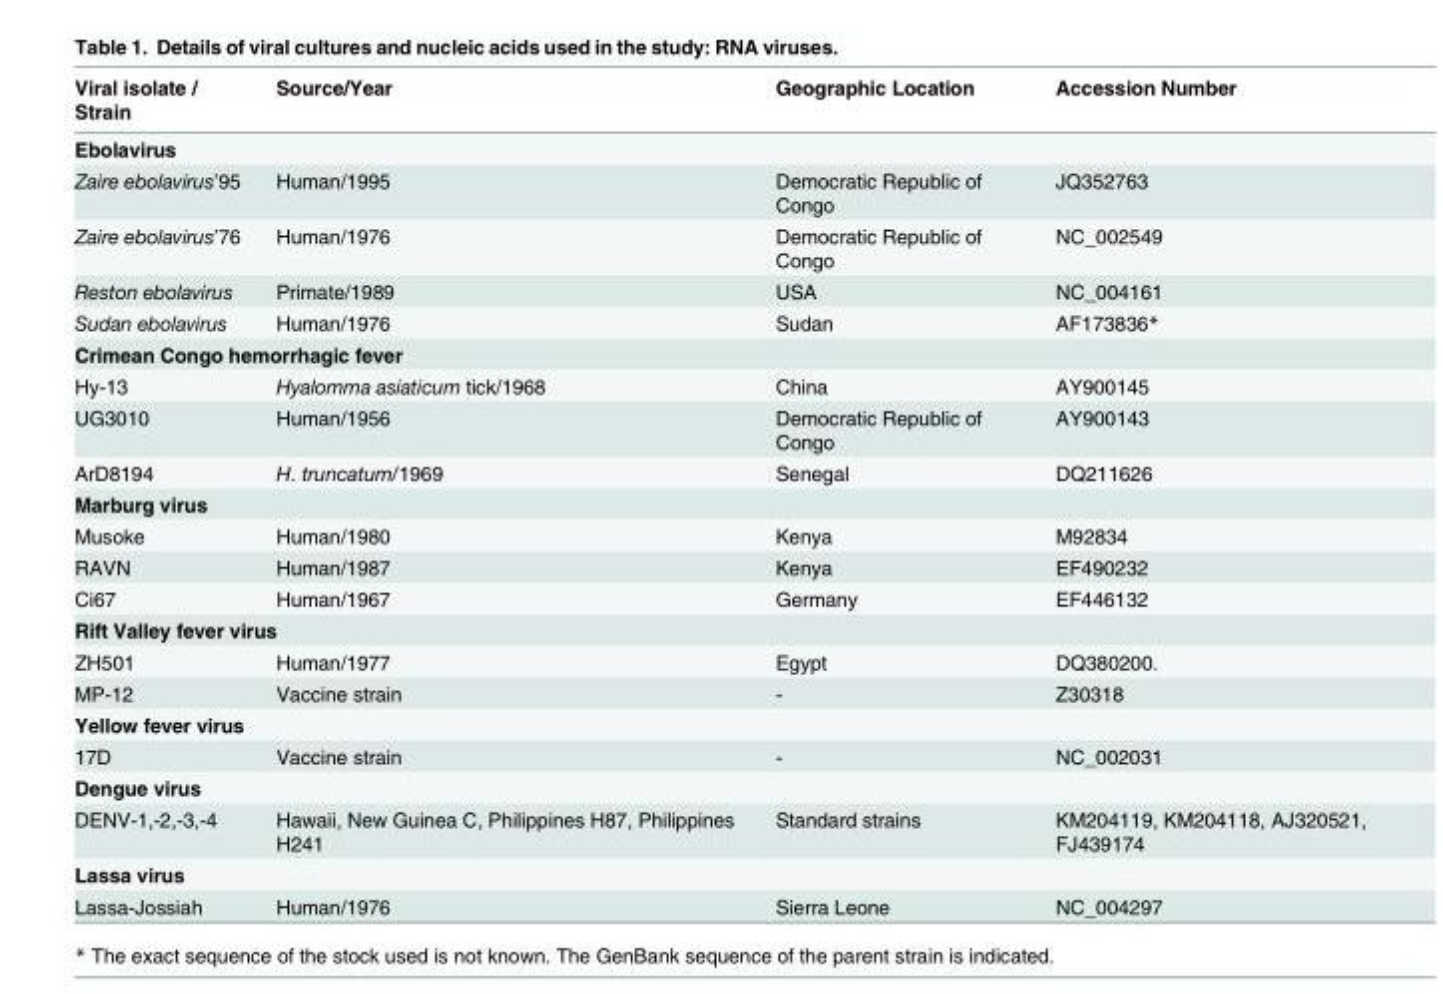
<table><thead><tr><td>Viral isolate / Strain</td><td>Source/Year</td><td>Geographic Location</td><td>Accession Number</td></tr></thead><tbody><tr><td colspan="4">Ebolavirus</td></tr><tr><td>Zaire ebolavirus’95</td><td>Human/1995</td><td>Democratic Republic of Congo</td><td>JQ352763</td></tr><tr><td>Zaire ebolavirus’76</td><td>Human/1976</td><td>Democratic Republic of Congo</td><td>NC_002549</td></tr><tr><td>Reston ebolavirus</td><td>Primate/1989</td><td>USA</td><td>NC_004161</td></tr><tr><td>Sudan ebolavirus</td><td>Human/1976</td><td>Sudan</td><td>AF173836*</td></tr><tr><td colspan="4">Crimean Congo hemorrhagic fever</td></tr><tr><td>Hy-13</td><td>Hyalomma asiaticum tick/1968</td><td>China</td><td>AY900145</td></tr><tr><td>UG3010</td><td>Human/1956</td><td>Democratic Republic of Congo</td><td>AY900143</td></tr><tr><td>ArD8194</td><td>H. truncatum/1969</td><td>Senegal</td><td>DQ211626</td></tr><tr><td colspan="4">Marburg virus</td></tr><tr><td>Musoke</td><td>Human/1980</td><td>Kenya</td><td>M92834</td></tr><tr><td>RAVN</td><td>Human/1987</td><td>Kenya</td><td>EF490232</td></tr><tr><td>Ci67</td><td>Human/1967</td><td>Germany</td><td>EF446132</td></tr><tr><td colspan="4">Rift Valley fever virus</td></tr><tr><td>ZH501</td><td>Human/1977</td><td>Egypt</td><td>DQ380200.</td></tr><tr><td>MP-12</td><td>Vaccine strain</td><td>-</td><td>Z30318</td></tr><tr><td colspan="4">Yellow fever virus</td></tr><tr><td>17D</td><td>Vaccine strain</td><td>-</td><td>NC_002031</td></tr><tr><td colspan="4">Dengue virus</td></tr><tr><td>DENV-1,-2,-3,-4</td><td>Hawaii, New Guinea C, Philippines H87, Philippines H241</td><td>Standard strains</td><td>KM204119, KM204118, AJ320521, FJ439174</td></tr><tr><td colspan="4">Lassa virus</td></tr><tr><td>Lassa-Jossiah</td><td>Human/1976</td><td>Sierra Leone</td><td>NC_004297</td></tr></tbody></table>